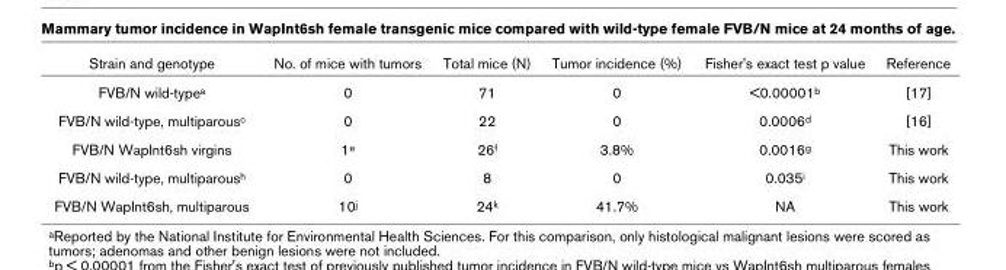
<table><thead><tr><td>Strain and genotype</td><td>No. of mice with tumors</td><td>Total mice (N)</td><td>Tumor incidence (%)</td><td>Fisher&#x27;s exact test p value</td><td>Reference</td></tr></thead><tbody><tr><td>FVB/N wild-type<sup>a</sup></td><td>0</td><td>71</td><td>0</td><td>&lt;0.00001<sup>b</sup></td><td>[17]</td></tr><tr><td>FVB/N wild-type, multiparous<sup>c</sup></td><td>0</td><td>22</td><td>0</td><td>0.0006<sup>d</sup></td><td>[16]</td></tr><tr><td>FVB/N WapInt6sh virgins</td><td>1<sup>e</sup></td><td>26<sup>f</sup></td><td>3.8%</td><td>0.0016<sup>g</sup></td><td>This work</td></tr><tr><td>FVB/N wild-type, multiparous<sup>h</sup></td><td>0</td><td>8</td><td>0</td><td>0.035<sup>i</sup></td><td>This work</td></tr><tr><td>FVB/N WapInt6sh, multiparous</td><td>10<sup>j</sup></td><td>24<sup>k</sup></td><td>41.7%</td><td>NA</td><td>This work</td></tr></tbody></table>